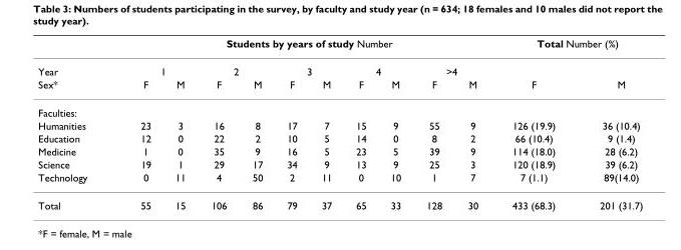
<table><thead><tr><td rowspan="3">Year Sex*</td><td colspan="10">Students by years of study Number</td><td colspan="2">Total Number (%)</td></tr><tr><td colspan="2">1</td><td colspan="2">2</td><td colspan="2">3</td><td colspan="2">4</td><td colspan="2">&gt;4</td><td rowspan="2">F</td><td rowspan="2">M</td></tr><tr><td>F</td><td>M</td><td>F</td><td>M</td><td>F</td><td>M</td><td>F</td><td>M</td><td>F</td><td>M</td></tr></thead><tbody><tr><td colspan="13">Faculties:</td></tr><tr><td>Humanities</td><td>23</td><td>3</td><td>16</td><td>8</td><td>17</td><td>7</td><td>15</td><td>9</td><td>55</td><td>9</td><td>126 (19.9)</td><td>36 (10.4)</td></tr><tr><td>Education</td><td>12</td><td>0</td><td>22</td><td>2</td><td>10</td><td>5</td><td>14</td><td>0</td><td>8</td><td>2</td><td>66 (10.4)</td><td>9 (1.4)</td></tr><tr><td>Medicine</td><td>1</td><td>0</td><td>35</td><td>9</td><td>16</td><td>5</td><td>23</td><td>5</td><td>39</td><td>9</td><td>114 (18.0)</td><td>28 (6.2)</td></tr><tr><td>Science</td><td>19</td><td>1</td><td>29</td><td>17</td><td>34</td><td>9</td><td>13</td><td>9</td><td>25</td><td>3</td><td>120 (18.9)</td><td>39 (6.2)</td></tr><tr><td>Technology</td><td>0</td><td>11</td><td>4</td><td>50</td><td>2</td><td>11</td><td>0</td><td>10</td><td>1</td><td>7</td><td>7 (1.1)</td><td>89(14.0)</td></tr><tr><td>Total</td><td>55</td><td>15</td><td>106</td><td>86</td><td>79</td><td>37</td><td>65</td><td>33</td><td>128</td><td>30</td><td>433 (68.3)</td><td>201 (31.7)</td></tr></tbody></table>